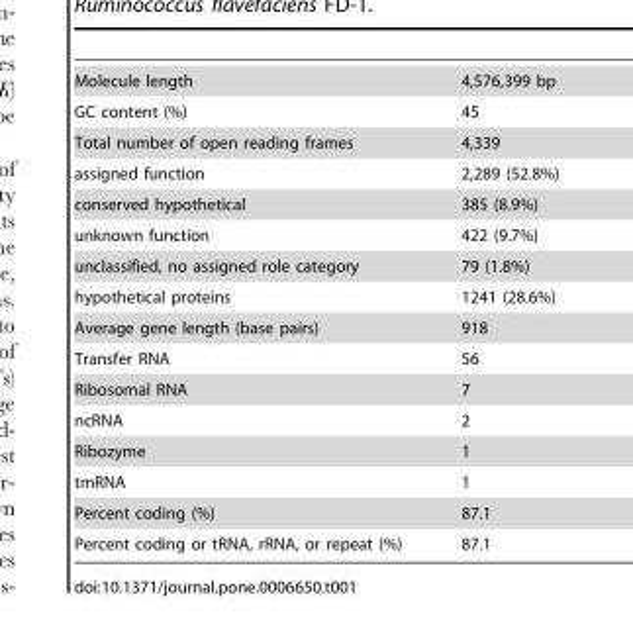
<table><tbody><tr><td>Molecule length</td><td>4,576,399 bp</td></tr><tr><td>GC content (%)</td><td>45</td></tr><tr><td>Total number of open reading frames</td><td>4,339</td></tr><tr><td>assigned function</td><td>2,289 (52.8%)</td></tr><tr><td>conserved hypothetical</td><td>385 (8.9%)</td></tr><tr><td>unknown function</td><td>422 (9.7%)</td></tr><tr><td>unclassified, no assigned role category</td><td>79 (1.8%)</td></tr><tr><td>hypothetical proteins</td><td>1241 (28.6%)</td></tr><tr><td>Average gene length (base pairs)</td><td>918</td></tr><tr><td>Transfer RNA</td><td>56</td></tr><tr><td>Ribosomal RNA</td><td>7</td></tr><tr><td>ncRNA</td><td>2</td></tr><tr><td>Ribozyme</td><td>1</td></tr><tr><td>tmRNA</td><td>1</td></tr><tr><td>Percent coding (%)</td><td>87.1</td></tr><tr><td>Percent coding or tRNA, rRNA, or repeat (%)</td><td>87.1</td></tr></tbody></table>